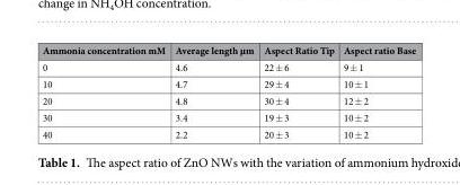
<table><thead><tr><td>Ammonia concentration mM</td><td>Average length µm</td><td>Aspect Ratio Tip</td><td>Aspect ratio Base</td></tr></thead><tbody><tr><td>0</td><td>4.6</td><td>22 ± 6</td><td>9 ± 1</td></tr><tr><td>10</td><td>4.7</td><td>29 ± 4</td><td>10 ± 1</td></tr><tr><td>20</td><td>4.8</td><td>30 ± 4</td><td>12 ± 2</td></tr><tr><td>30</td><td>3.4</td><td>19 ± 3</td><td>10 ± 2</td></tr><tr><td>40</td><td>2.2</td><td>20 ± 3</td><td>10 ± 2</td></tr></tbody></table>